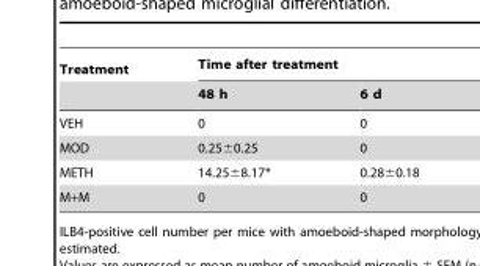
<table><thead><tr><td rowspan="2">Treatment</td><td colspan="2">Time after treatment</td></tr><tr><td>48 h</td><td>6 d</td></tr></thead><tbody><tr><td>VEH</td><td>0</td><td>0</td></tr><tr><td>MOD</td><td>0.25±0.25</td><td>0</td></tr><tr><td>METH</td><td>14.25±8.17*</td><td>0.28±0.18</td></tr><tr><td>M+M</td><td>0</td><td>0</td></tr></tbody></table>